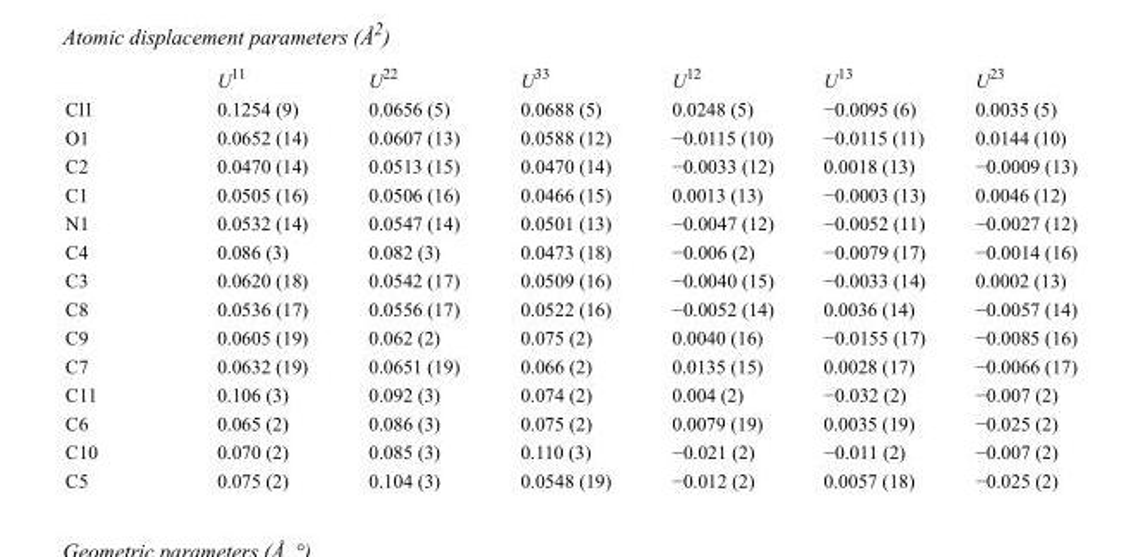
<table><thead><tr><td></td><td>U<sup>11</sup></td><td>U<sup>22</sup></td><td>U<sup>33</sup></td><td>U<sup>12</sup></td><td>U<sup>13</sup></td><td>U<sup>23</sup></td></tr></thead><tbody><tr><td>Cl1</td><td>0.1254 (9)</td><td>0.0656 (5)</td><td>0.0688 (5)</td><td>0.0248 (5)</td><td>−0.0095 (6)</td><td>0.0035 (5)</td></tr><tr><td>O1</td><td>0.0652 (14)</td><td>0.0607 (13)</td><td>0.0588 (12)</td><td>−0.0115 (10)</td><td>−0.0115 (11)</td><td>0.0144 (10)</td></tr><tr><td>C2</td><td>0.0470 (14)</td><td>0.0513 (15)</td><td>0.0470 (14)</td><td>−0.0033 (12)</td><td>0.0018 (13)</td><td>−0.0009 (13)</td></tr><tr><td>C1</td><td>0.0505 (16)</td><td>0.0506 (16)</td><td>0.0466 (15)</td><td>0.0013 (13)</td><td>−0.0003 (13)</td><td>0.0046 (12)</td></tr><tr><td>N1</td><td>0.0532 (14)</td><td>0.0547 (14)</td><td>0.0501 (13)</td><td>−0.0047 (12)</td><td>−0.0052 (11)</td><td>−0.0027 (12)</td></tr><tr><td>C4</td><td>0.086 (3)</td><td>0.082 (3)</td><td>0.0473 (18)</td><td>−0.006 (2)</td><td>−0.0079 (17)</td><td>−0.0014 (16)</td></tr><tr><td>C3</td><td>0.0620 (18)</td><td>0.0542 (17)</td><td>0.0509 (16)</td><td>−0.0040 (15)</td><td>−0.0033 (14)</td><td>0.0002 (13)</td></tr><tr><td>C8</td><td>0.0536 (17)</td><td>0.0556 (17)</td><td>0.0522 (16)</td><td>−0.0052 (14)</td><td>0.0036 (14)</td><td>−0.0057 (14)</td></tr><tr><td>C9</td><td>0.0605 (19)</td><td>0.062 (2)</td><td>0.075 (2)</td><td>0.0040 (16)</td><td>−0.0155 (17)</td><td>−0.0085 (16)</td></tr><tr><td>C7</td><td>0.0632 (19)</td><td>0.0651 (19)</td><td>0.066 (2)</td><td>0.0135 (15)</td><td>0.0028 (17)</td><td>−0.0066 (17)</td></tr><tr><td>C11</td><td>0.106 (3)</td><td>0.092 (3)</td><td>0.074 (2)</td><td>0.004 (2)</td><td>−0.032 (2)</td><td>−0.007 (2)</td></tr><tr><td>C6</td><td>0.065 (2)</td><td>0.086 (3)</td><td>0.075 (2)</td><td>0.0079 (19)</td><td>0.0035 (19)</td><td>−0.025 (2)</td></tr><tr><td>C10</td><td>0.070 (2)</td><td>0.085 (3)</td><td>0.110 (3)</td><td>−0.021 (2)</td><td>−0.011 (2)</td><td>−0.007 (2)</td></tr><tr><td>C5</td><td>0.075 (2)</td><td>0.104 (3)</td><td>0.0548 (19)</td><td>−0.012 (2)</td><td>0.0057 (18)</td><td>−0.025 (2)</td></tr></tbody></table>